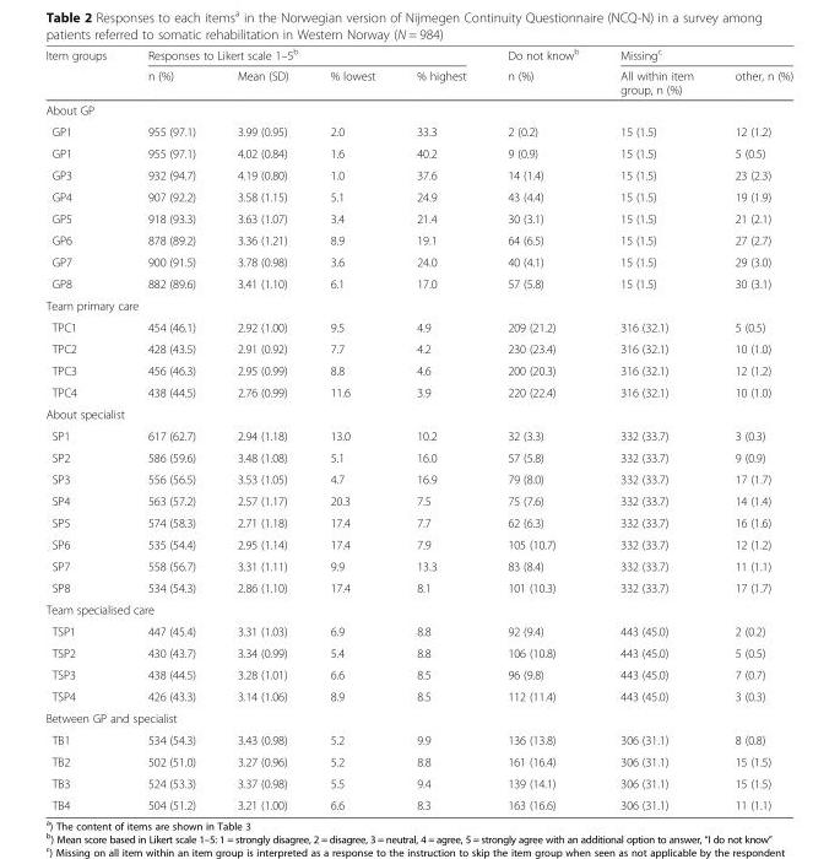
<table><thead><tr><td rowspan="2">Item groups</td><td colspan="4">Responses to Likert scale 1–5<sup>b</sup></td><td rowspan="2">Do not know<sup>b</sup> n (%)</td><td colspan="2">Missing<sup>c</sup></td></tr><tr><td>n (%)</td><td>Mean (SD)</td><td>% lowest</td><td>% highest</td><td>All within item group, n (%)</td><td>other, n (%)</td></tr></thead><tbody><tr><td colspan="8">About GP</td></tr><tr><td>GP1</td><td>955 (97.1)</td><td>3.99 (0.95)</td><td>2.0</td><td>33.3</td><td>2 (0.2)</td><td>15 (1.5)</td><td>12 (1.2)</td></tr><tr><td>GP1</td><td>955 (97.1)</td><td>4.02 (0.84)</td><td>1.6</td><td>40.2</td><td>9 (0.9)</td><td>15 (1.5)</td><td>5 (0.5)</td></tr><tr><td>GP3</td><td>932 (94.7)</td><td>4.19 (0.80)</td><td>1.0</td><td>37.6</td><td>14 (1.4)</td><td>15 (1.5)</td><td>23 (2.3)</td></tr><tr><td>GP4</td><td>907 (92.2)</td><td>3.58 (1.15)</td><td>5.1</td><td>24.9</td><td>43 (4.4)</td><td>15 (1.5)</td><td>19 (1.9)</td></tr><tr><td>GP5</td><td>918 (93.3)</td><td>3.63 (1.07)</td><td>3.4</td><td>21.4</td><td>30 (3.1)</td><td>15 (1.5)</td><td>21 (2.1)</td></tr><tr><td>GP6</td><td>878 (89.2)</td><td>3.36 (1.21)</td><td>8.9</td><td>19.1</td><td>64 (6.5)</td><td>15 (1.5)</td><td>27 (2.7)</td></tr><tr><td>GP7</td><td>900 (91.5)</td><td>3.78 (0.98)</td><td>3.6</td><td>24.0</td><td>40 (4.1)</td><td>15 (1.5)</td><td>29 (3.0)</td></tr><tr><td>GP8</td><td>882 (89.6)</td><td>3.41 (1.10)</td><td>6.1</td><td>17.0</td><td>57 (5.8)</td><td>15 (1.5)</td><td>30 (3.1)</td></tr><tr><td colspan="8">Team primary care</td></tr><tr><td>TPC1</td><td>454 (46.1)</td><td>2.92 (1.00)</td><td>9.5</td><td>4.9</td><td>209 (21.2)</td><td>316 (32.1)</td><td>5 (0.5)</td></tr><tr><td>TPC2</td><td>428 (43.5)</td><td>2.91 (0.92)</td><td>7.7</td><td>4.2</td><td>230 (23.4)</td><td>316 (32.1)</td><td>10 (1.0)</td></tr><tr><td>TPC3</td><td>456 (46.3)</td><td>2.95 (0.99)</td><td>8.8</td><td>4.6</td><td>200 (20.3)</td><td>316 (32.1)</td><td>12 (1.2)</td></tr><tr><td>TPC4</td><td>438 (44.5)</td><td>2.76 (0.99)</td><td>11.6</td><td>3.9</td><td>220 (22.4)</td><td>316 (32.1)</td><td>10 (1.0)</td></tr><tr><td colspan="8">About specialist</td></tr><tr><td>SP1</td><td>617 (62.7)</td><td>2.94 (1.18)</td><td>13.0</td><td>10.2</td><td>32 (3.3)</td><td>332 (33.7)</td><td>3 (0.3)</td></tr><tr><td>SP2</td><td>586 (59.6)</td><td>3.48 (1.08)</td><td>5.1</td><td>16.0</td><td>57 (5.8)</td><td>332 (33.7)</td><td>9 (0.9)</td></tr><tr><td>SP3</td><td>556 (56.5)</td><td>3.53 (1.05)</td><td>4.7</td><td>16.9</td><td>79 (8.0)</td><td>332 (33.7)</td><td>17 (1.7)</td></tr><tr><td>SP4</td><td>563 (57.2)</td><td>2.57 (1.17)</td><td>20.3</td><td>7.5</td><td>75 (7.6)</td><td>332 (33.7)</td><td>14 (1.4)</td></tr><tr><td>SP5</td><td>574 (58.3)</td><td>2.71 (1.18)</td><td>17.4</td><td>7.7</td><td>62 (6.3)</td><td>332 (33.7)</td><td>16 (1.6)</td></tr><tr><td>SP6</td><td>535 (54.4)</td><td>2.95 (1.14)</td><td>17.4</td><td>7.9</td><td>105 (10.7)</td><td>332 (33.7)</td><td>12 (1.2)</td></tr><tr><td>SP7</td><td>558 (56.7)</td><td>3.31 (1.11)</td><td>9.9</td><td>13.3</td><td>83 (8.4)</td><td>332 (33.7)</td><td>11 (1.1)</td></tr><tr><td>SP8</td><td>534 (54.3)</td><td>2.86 (1.10)</td><td>17.4</td><td>8.1</td><td>101 (10.3)</td><td>332 (33.7)</td><td>17 (1.7)</td></tr><tr><td colspan="8">Team specialised care</td></tr><tr><td>TSP1</td><td>447 (45.4)</td><td>3.31 (1.03)</td><td>6.9</td><td>8.8</td><td>92 (9.4)</td><td>443 (45.0)</td><td>2 (0.2)</td></tr><tr><td>TSP2</td><td>430 (43.7)</td><td>3.34 (0.99)</td><td>5.4</td><td>8.8</td><td>106 (10.8)</td><td>443 (45.0)</td><td>5 (0.5)</td></tr><tr><td>TSP3</td><td>438 (44.5)</td><td>3.28 (1.01)</td><td>6.6</td><td>8.5</td><td>96 (9.8)</td><td>443 (45.0)</td><td>7 (0.7)</td></tr><tr><td>TSP4</td><td>426 (43.3)</td><td>3.14 (1.06)</td><td>8.9</td><td>8.5</td><td>112 (11.4)</td><td>443 (45.0)</td><td>3 (0.3)</td></tr><tr><td colspan="8">Between GP and specialist</td></tr><tr><td>TB1</td><td>534 (54.3)</td><td>3.43 (0.98)</td><td>5.2</td><td>9.9</td><td>136 (13.8)</td><td>306 (31.1)</td><td>8 (0.8)</td></tr><tr><td>TB2</td><td>502 (51.0)</td><td>3.27 (0.96)</td><td>5.2</td><td>8.8</td><td>161 (16.4)</td><td>306 (31.1)</td><td>15 (1.5)</td></tr><tr><td>TB3</td><td>524 (53.3)</td><td>3.37 (0.98)</td><td>5.5</td><td>9.4</td><td>139 (14.1)</td><td>306 (31.1)</td><td>15 (1.5)</td></tr><tr><td>TB4</td><td>504 (51.2)</td><td>3.21 (1.00)</td><td>6.6</td><td>8.3</td><td>163 (16.6)</td><td>306 (31.1)</td><td>11 (1.1)</td></tr></tbody></table>